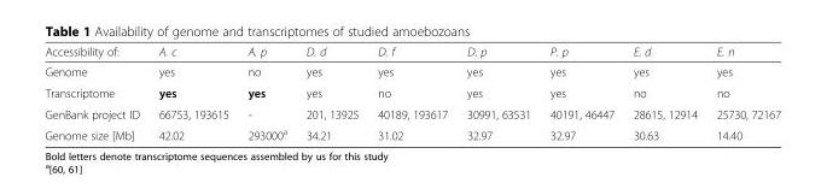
<table><thead><tr><td>Accessibility of:</td><td>A. c</td><td>A. p</td><td>D. d</td><td>D. f</td><td>D. p</td><td>P. p</td><td>E. d</td><td>E. n</td></tr></thead><tbody><tr><td>Genome</td><td>yes</td><td>no</td><td>yes</td><td>yes</td><td>yes</td><td>yes</td><td>yes</td><td>yes</td></tr><tr><td>Transcriptome</td><td>yes</td><td>yes</td><td>yes</td><td>no</td><td>yes</td><td>yes</td><td>no</td><td>no</td></tr><tr><td>GenBank project ID</td><td>66753, 193615</td><td>-</td><td>201, 13925</td><td>40189, 193617</td><td>30991, 63531</td><td>40191, 46447</td><td>28615, 12914</td><td>25730, 72167</td></tr><tr><td>Genome size [Mb]</td><td>42.02</td><td>293000<sup>a</sup></td><td>34.21</td><td>31.02</td><td>32.97</td><td>32.97</td><td>30.63</td><td>14.40</td></tr></tbody></table>